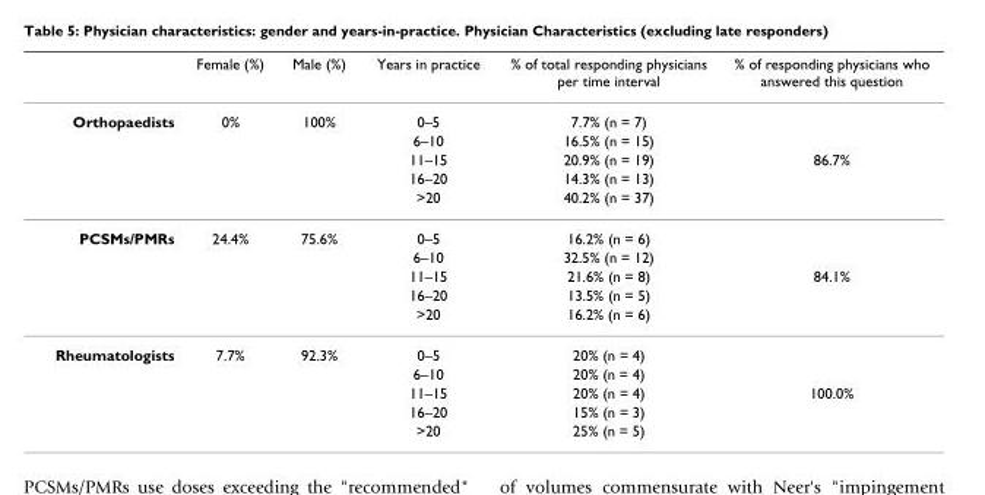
<table><thead><tr><td></td><td>Female (%)</td><td>Male (%)</td><td>Years in practice</td><td>% of total responding physicians per time interval</td><td>% of responding physicians who answered this question</td></tr></thead><tbody><tr><td rowspan="5">Orthopaedists</td><td>0%</td><td>100%</td><td>0–5</td><td>7.7% (n = 7)</td><td></td></tr><tr><td></td><td></td><td>6–10</td><td>16.5% (n = 15)</td><td></td></tr><tr><td></td><td></td><td>11–15</td><td>20.9% (n = 19)</td><td>86.7%</td></tr><tr><td></td><td></td><td>16–20</td><td>14.3% (n = 13)</td><td></td></tr><tr><td></td><td></td><td>&gt;20</td><td>40.2% (n = 37)</td><td></td></tr><tr><td rowspan="5">PCSMs/PMRs</td><td>24.4%</td><td>75.6%</td><td>0–5</td><td>16.2% (n = 6)</td><td></td></tr><tr><td></td><td></td><td>6–10</td><td>32.5% (n = 12)</td><td></td></tr><tr><td></td><td></td><td>11–15</td><td>21.6% (n = 8)</td><td>84.1%</td></tr><tr><td></td><td></td><td>16–20</td><td>13.5% (n = 5)</td><td></td></tr><tr><td></td><td></td><td>&gt;20</td><td>16.2% (n = 6)</td><td></td></tr><tr><td rowspan="5">Rheumatologists</td><td>7.7%</td><td>92.3%</td><td>0–5</td><td>20% (n = 4)</td><td></td></tr><tr><td></td><td></td><td>6–10</td><td>20% (n = 4)</td><td></td></tr><tr><td></td><td></td><td>11–15</td><td>20% (n = 4)</td><td>100.0%</td></tr><tr><td></td><td></td><td>16–20</td><td>15% (n = 3)</td><td></td></tr><tr><td></td><td></td><td>&gt;20</td><td>25% (n = 5)</td><td></td></tr></tbody></table>